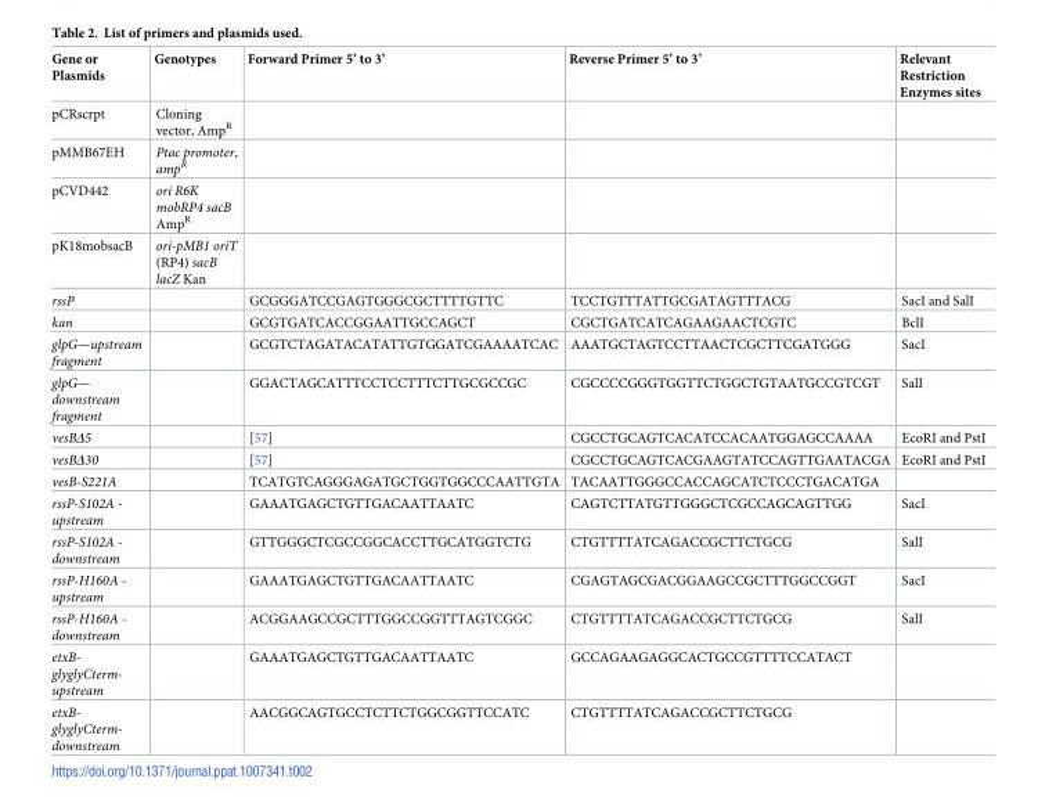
<table><thead><tr><td>Gene or Plasmids</td><td>Genotypes</td><td>Forward Primer 5’ to 3’</td><td>Reverse Primer 5’ to 3’</td><td>Relevant Restriction Enzymes sites</td></tr></thead><tbody><tr><td>pCRscrpt</td><td>Cloning vector, Amp<sup>R</sup></td><td></td><td></td><td></td></tr><tr><td>pMMB67EH</td><td>Ptac promoter, amp<sup>R</sup></td><td></td><td></td><td></td></tr><tr><td>pCVD442</td><td>ori R6K mobRP4 sacB Amp<sup>R</sup></td><td></td><td></td><td></td></tr><tr><td>pK18mobsacB</td><td>ori-pMB1 oriT (RP4) sacB lacZ Kan</td><td></td><td></td><td></td></tr><tr><td>rssP</td><td></td><td>GCGGGATCCGAGTGGGCGCTTTTGTTC</td><td>TCCTGTTTATTGCGATAGTTTACG</td><td>SacI and SalI</td></tr><tr><td>kan</td><td></td><td>GCGTGATCACCGGAATTGCCAGCT</td><td>CGCTGATCATCAGAAGAACTCGTC</td><td>BclI</td></tr><tr><td>glpG—upstream fragment</td><td></td><td>GCGTCTAGATACATATTGTGGATCGAAAATCAC</td><td>AAATGCTAGTCCTTAACTCGCTTCGATGGG</td><td>SacI</td></tr><tr><td>glpG— downstream fragment</td><td></td><td>GGACTAGCATTTCCTCCTTTCTTGCGCCGC</td><td>CGCCCCGGGTGGTTCTGGCTGTAATGCCGTCGT</td><td>SalI</td></tr><tr><td>vesBΔ5</td><td></td><td>[57]</td><td>CGCCTGCAGTCACATCCACAATGGAGCCAAAA</td><td>EcoRI and PstI</td></tr><tr><td>vesBΔ30</td><td></td><td>[57]</td><td>CGCCTGCAGTCACGAAGTATCCAGTTGAATACGA</td><td>EcoRI and PstI</td></tr><tr><td>vesB-S221A</td><td></td><td>TCATGTCAGGGAGATGCTGGTGGCCCAATTGTA</td><td>TACAATTGGGCCACCAGCATCTCCCTGACATGA</td><td></td></tr><tr><td>rssP-S102A - upstream</td><td></td><td>GAAATGAGCTGTTGACAATTAATC</td><td>CAGTCTTATGTTGGGCTCGCCAGCAGTTGG</td><td>SacI</td></tr><tr><td>rssP-S102A - downstream</td><td></td><td>GTTGGGCTCGCCGGCACCTTGCATGGTCTG</td><td>CTGTTTTATCAGACCGCTTCTGCG</td><td>SalI</td></tr><tr><td>rssP-H160A - upstream</td><td></td><td>GAAATGAGCTGTTGACAATTAATC</td><td>CGAGTAGCGACGGAAGCCGCTTTGGCCGGT</td><td>SacI</td></tr><tr><td>rssP-H160A - downstream</td><td></td><td>ACGGAAGCCGCTTTGGCCGGTTTAGTCGGC</td><td>CTGTTTTATCAGACCGCTTCTGCG</td><td>SalI</td></tr><tr><td>etxB- glyglyCterm- upstream</td><td></td><td>GAAATGAGCTGTTGACAATTAATC</td><td>GCCAGAAGAGGCACTGCCGTTTTCCATACT</td><td></td></tr><tr><td>etxB- glyglyCterm- downstream</td><td></td><td>AACGGCAGTGCCTCTTCTGGCGGTTCCATC</td><td>CTGTTTTATCAGACCGCTTCTGCG</td><td></td></tr></tbody></table>